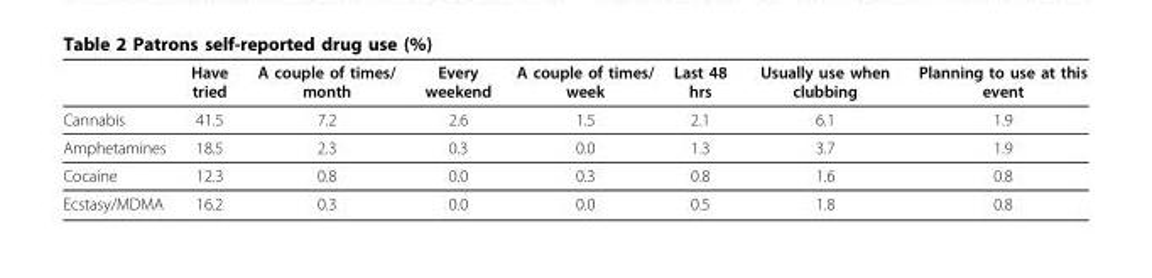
<table><thead><tr><td></td><td>Have tried</td><td>A couple of times/ month</td><td>Every weekend</td><td>A couple of times/ week</td><td>Last 48 hrs</td><td>Usually use when clubbing</td><td>Planning to use at this event</td></tr></thead><tbody><tr><td>Cannabis</td><td>41.5</td><td>7.2</td><td>2.6</td><td>1.5</td><td>2.1</td><td>6.1</td><td>1.9</td></tr><tr><td>Amphetamines</td><td>18.5</td><td>2.3</td><td>0.3</td><td>0.0</td><td>1.3</td><td>3.7</td><td>1.9</td></tr><tr><td>Cocaine</td><td>12.3</td><td>0.8</td><td>0.0</td><td>0.3</td><td>0.8</td><td>1.6</td><td>0.8</td></tr><tr><td>Ecstasy/MDMA</td><td>16.2</td><td>0.3</td><td>0.0</td><td>0.0</td><td>0.5</td><td>1.8</td><td>0.8</td></tr></tbody></table>